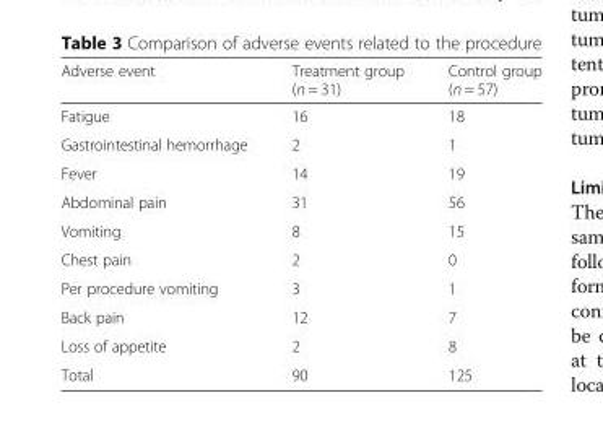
<table><thead><tr><td>Adverse event</td><td>Treatment group (n = 31)</td><td>Control group (n = 57)</td></tr></thead><tbody><tr><td>Fatigue</td><td>16</td><td>18</td></tr><tr><td>Gastrointestinal hemorrhage</td><td>2</td><td>1</td></tr><tr><td>Fever</td><td>14</td><td>19</td></tr><tr><td>Abdominal pain</td><td>31</td><td>56</td></tr><tr><td>Vomiting</td><td>8</td><td>15</td></tr><tr><td>Chest pain</td><td>2</td><td>0</td></tr><tr><td>Per procedure vomiting</td><td>3</td><td>1</td></tr><tr><td>Back pain</td><td>12</td><td>7</td></tr><tr><td>Loss of appetite</td><td>2</td><td>8</td></tr><tr><td>Total</td><td>90</td><td>125</td></tr></tbody></table>